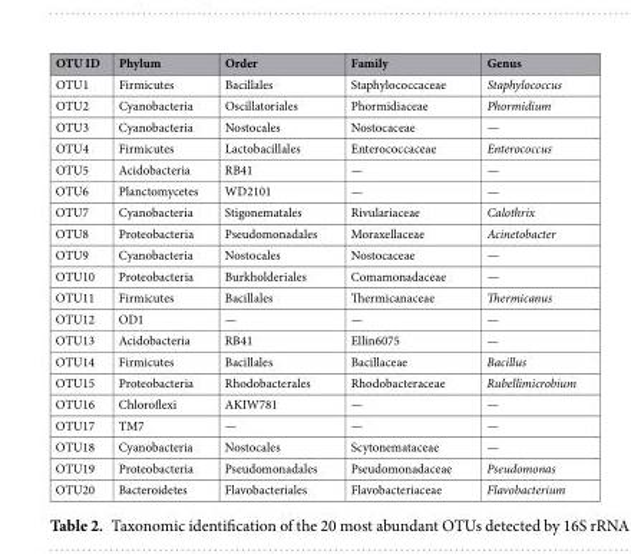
<table><thead><tr><td>OTU ID</td><td>Phylum</td><td>Order</td><td>Family</td><td>Genus</td></tr></thead><tbody><tr><td>OTU1</td><td>Firmicutes</td><td>Bacillales</td><td>Staphylococcaceae</td><td>Staphylococcus</td></tr><tr><td>OTU2</td><td>Cyanobacteria</td><td>Oscillatoriales</td><td>Phormidiaceae</td><td>Phormidium</td></tr><tr><td>OTU3</td><td>Cyanobacteria</td><td>Nostocales</td><td>Nostocaceae</td><td>—</td></tr><tr><td>OTU4</td><td>Firmicutes</td><td>Lactobacillales</td><td>Enterococcaceae</td><td>Enterococcus</td></tr><tr><td>OTU5</td><td>Acidobacteria</td><td>RB41</td><td>—</td><td>—</td></tr><tr><td>OTU6</td><td>Planctomycetes</td><td>WD2101</td><td>—</td><td>—</td></tr><tr><td>OTU7</td><td>Cyanobacteria</td><td>Stigonematales</td><td>Rivulariaceae</td><td>Calothrix</td></tr><tr><td>OTU8</td><td>Proteobacteria</td><td>Pseudomonadales</td><td>Moraxellaceae</td><td>Acinetobacter</td></tr><tr><td>OTU9</td><td>Cyanobacteria</td><td>Nostocales</td><td>Nostocaceae</td><td>—</td></tr><tr><td>OTU10</td><td>Proteobacteria</td><td>Burkholderiales</td><td>Comamonadaceae</td><td>—</td></tr><tr><td>OTU11</td><td>Firmicutes</td><td>Bacillales</td><td>Thermicanaceae</td><td>Thermicanus</td></tr><tr><td>OTU12</td><td>OD1</td><td>—</td><td>—</td><td>—</td></tr><tr><td>OTU13</td><td>Acidobacteria</td><td>RB41</td><td>Ellin6075</td><td>—</td></tr><tr><td>OTU14</td><td>Firmicutes</td><td>Bacillales</td><td>Bacillaceae</td><td>Bacillus</td></tr><tr><td>OTU15</td><td>Proteobacteria</td><td>Rhodobacterales</td><td>Rhodobacteraceae</td><td>Rubellimicrobium</td></tr><tr><td>OTU16</td><td>Chloroflexi</td><td>AKIW781</td><td>—</td><td>—</td></tr><tr><td>OTU17</td><td>TM7</td><td>—</td><td>—</td><td>—</td></tr><tr><td>OTU18</td><td>Cyanobacteria</td><td>Nostocales</td><td>Scytonemataceae</td><td>—</td></tr><tr><td>OTU19</td><td>Proteobacteria</td><td>Pseudomonadales</td><td>Pseudomonadaceae</td><td>Pseudomonas</td></tr><tr><td>OTU20</td><td>Bacteroidetes</td><td>Flavobacteriales</td><td>Flavobacteriaceae</td><td>Flavobacterium</td></tr></tbody></table>